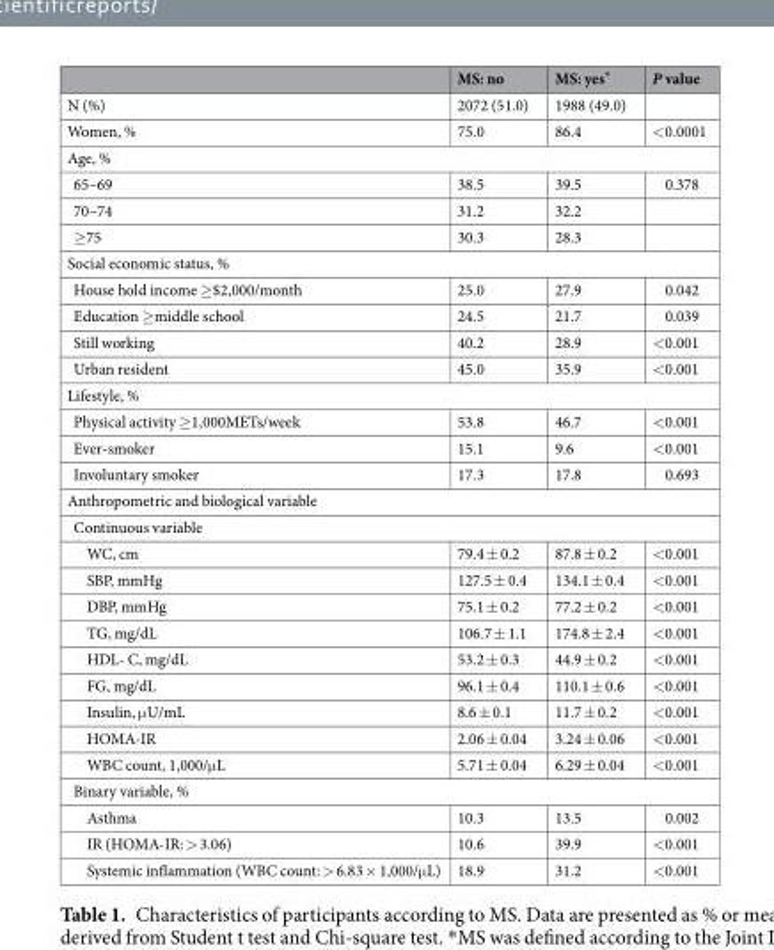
<table><thead><tr><td></td><td>MS: no</td><td>MS: yes*</td><td>P value</td></tr></thead><tbody><tr><td>N (%)</td><td>2072 (51.0)</td><td>1988 (49.0)</td><td></td></tr><tr><td>Women, %</td><td>75.0</td><td>86.4</td><td>&lt;0.0001</td></tr><tr><td colspan="4">Age, %</td></tr><tr><td>65–69</td><td>38.5</td><td>39.5</td><td>0.378</td></tr><tr><td>70–74</td><td>31.2</td><td>32.2</td><td></td></tr><tr><td>≥75</td><td>30.3</td><td>28.3</td><td></td></tr><tr><td colspan="4">Social economic status, %</td></tr><tr><td>House hold income ≥$2,000/month</td><td>25.0</td><td>27.9</td><td>0.042</td></tr><tr><td>Education ≥middle school</td><td>24.5</td><td>21.7</td><td>0.039</td></tr><tr><td>Still working</td><td>40.2</td><td>28.9</td><td>&lt;0.001</td></tr><tr><td>Urban resident</td><td>45.0</td><td>35.9</td><td>&lt;0.001</td></tr><tr><td colspan="4">Lifestyle, %</td></tr><tr><td>Physical activity ≥1,000METs/week</td><td>53.8</td><td>46.7</td><td>&lt;0.001</td></tr><tr><td>Ever-smoker</td><td>15.1</td><td>9.6</td><td>&lt;0.001</td></tr><tr><td>Involuntary smoker</td><td>17.3</td><td>17.8</td><td>0.693</td></tr><tr><td colspan="4">Anthropometric and biological variable</td></tr><tr><td colspan="4">Continuous variable</td></tr><tr><td>WC, cm</td><td>79.4 ± 0.2</td><td>87.8 ± 0.2</td><td>&lt;0.001</td></tr><tr><td>SBP, mmHg</td><td>127.5 ± 0.4</td><td>134.1 ± 0.4</td><td>&lt;0.001</td></tr><tr><td>DBP, mmHg</td><td>75.1 ± 0.2</td><td>77.2 ± 0.2</td><td>&lt;0.001</td></tr><tr><td>TG, mg/dL</td><td>106.7 ± 1.1</td><td>174.8 ± 2.4</td><td>&lt;0.001</td></tr><tr><td>HDL- C, mg/dL</td><td>53.2 ± 0.3</td><td>44.9 ± 0.2</td><td>&lt;0.001</td></tr><tr><td>FG, mg/dL</td><td>96.1 ± 0.4</td><td>110.1 ± 0.6</td><td>&lt;0.001</td></tr><tr><td>Insulin, μU/mL</td><td>8.6 ± 0.1</td><td>11.7 ± 0.2</td><td>&lt;0.001</td></tr><tr><td>HOMA-IR</td><td>2.06 ± 0.04</td><td>3.24 ± 0.06</td><td>&lt;0.001</td></tr><tr><td>WBC count, 1,000/μL</td><td>5.71 ± 0.04</td><td>6.29 ± 0.04</td><td>&lt;0.001</td></tr><tr><td colspan="4">Binary variable, %</td></tr><tr><td>Asthma</td><td>10.3</td><td>13.5</td><td>0.002</td></tr><tr><td>IR (HOMA-IR: &gt; 3.06)</td><td>10.6</td><td>39.9</td><td>&lt;0.001</td></tr><tr><td>Systemic inflammation (WBC count: &gt; 6.83 × 1,000/μL)</td><td>18.9</td><td>31.2</td><td>&lt;0.001</td></tr></tbody></table>